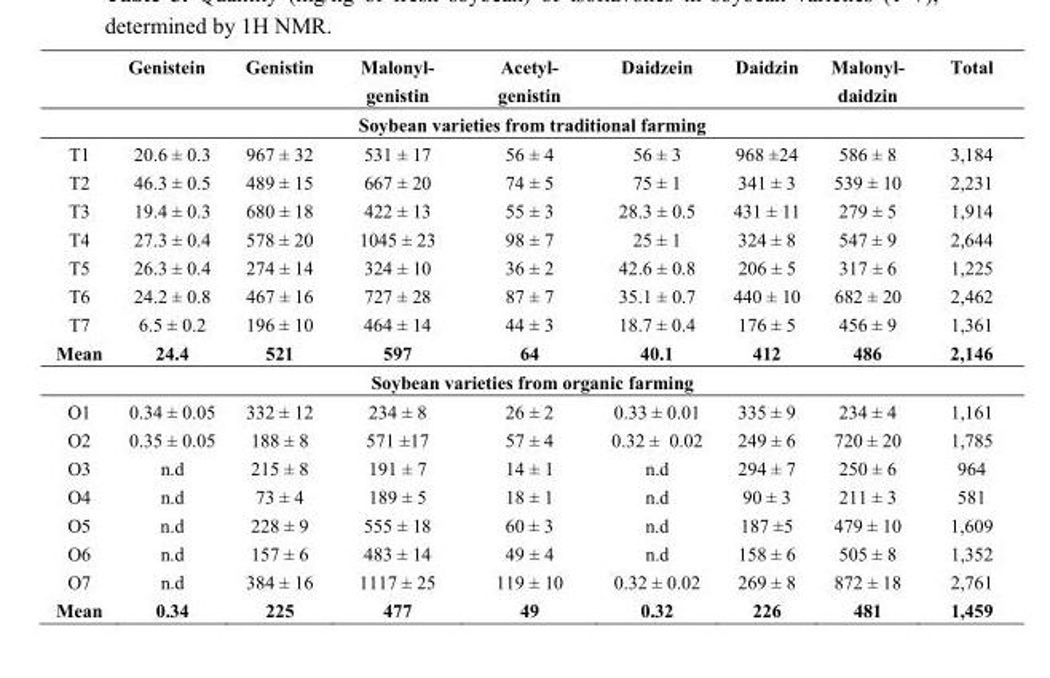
<table><thead><tr><td></td><td>Genistein</td><td>Genistin</td><td>Malonyl- genistin</td><td>Acetyl- genistin</td><td>Daidzein</td><td>Daidzin</td><td>Malonyl- daidzin</td><td>Total</td></tr></thead><tbody><tr><td colspan="9">Soybean varieties from traditional farming</td></tr><tr><td>T1</td><td>20.6 ± 0.3</td><td>967 ± 32</td><td>531 ± 17</td><td>56 ± 4</td><td>56 ± 3</td><td>968 ±24</td><td>586 ± 8</td><td>3,184</td></tr><tr><td>T2</td><td>46.3 ± 0.5</td><td>489 ± 15</td><td>667 ± 20</td><td>74 ± 5</td><td>75 ± 1</td><td>341 ± 3</td><td>539 ± 10</td><td>2,231</td></tr><tr><td>T3</td><td>19.4 ± 0.3</td><td>680 ± 18</td><td>422 ± 13</td><td>55 ± 3</td><td>28.3 ± 0.5</td><td>431 ± 11</td><td>279 ± 5</td><td>1,914</td></tr><tr><td>T4</td><td>27.3 ± 0.4</td><td>578 ± 20</td><td>1045 ± 23</td><td>98 ± 7</td><td>25 ± 1</td><td>324 ± 8</td><td>547 ± 9</td><td>2,644</td></tr><tr><td>T5</td><td>26.3 ± 0.4</td><td>274 ± 14</td><td>324 ± 10</td><td>36 ± 2</td><td>42.6 ± 0.8</td><td>206 ± 5</td><td>317 ± 6</td><td>1,225</td></tr><tr><td>T6</td><td>24.2 ± 0.8</td><td>467 ± 16</td><td>727 ± 28</td><td>87 ± 7</td><td>35.1 ± 0.7</td><td>440 ± 10</td><td>682 ± 20</td><td>2,462</td></tr><tr><td>T7</td><td>6.5 ± 0.2</td><td>196 ± 10</td><td>464 ± 14</td><td>44 ± 3</td><td>18.7 ± 0.4</td><td>176 ± 5</td><td>456 ± 9</td><td>1,361</td></tr><tr><td>Mean</td><td>24.4</td><td>521</td><td>597</td><td>64</td><td>40.1</td><td>412</td><td>486</td><td>2,146</td></tr><tr><td colspan="9">Soybean varieties from organic farming</td></tr><tr><td>O1</td><td>0.34 ± 0.05</td><td>332 ± 12</td><td>234 ± 8</td><td>26 ± 2</td><td>0.33 ± 0.01</td><td>335 ± 9</td><td>234 ± 4</td><td>1,161</td></tr><tr><td>O2</td><td>0.35 ± 0.05</td><td>188 ± 8</td><td>571 ±17</td><td>57 ± 4</td><td>0.32 ± 0.02</td><td>249 ± 6</td><td>720 ± 20</td><td>1,785</td></tr><tr><td>O3</td><td>n.d</td><td>215 ± 8</td><td>191 ± 7</td><td>14 ± 1</td><td>n.d</td><td>294 ± 7</td><td>250 ± 6</td><td>964</td></tr><tr><td>O4</td><td>n.d</td><td>73 ± 4</td><td>189 ± 5</td><td>18 ± 1</td><td>n.d</td><td>90 ± 3</td><td>211 ± 3</td><td>581</td></tr><tr><td>O5</td><td>n.d</td><td>228 ± 9</td><td>555 ± 18</td><td>60 ± 3</td><td>n.d</td><td>187 ±5</td><td>479 ± 10</td><td>1,609</td></tr><tr><td>O6</td><td>n.d</td><td>157 ± 6</td><td>483 ± 14</td><td>49 ± 4</td><td>n.d</td><td>158 ± 6</td><td>505 ± 8</td><td>1,352</td></tr><tr><td>O7</td><td>n.d</td><td>384 ± 16</td><td>1117 ± 25</td><td>119 ± 10</td><td>0.32 ± 0.02</td><td>269 ± 8</td><td>872 ± 18</td><td>2,761</td></tr><tr><td>Mean</td><td>0.34</td><td>225</td><td>477</td><td>49</td><td>0.32</td><td>226</td><td>481</td><td>1,459</td></tr></tbody></table>